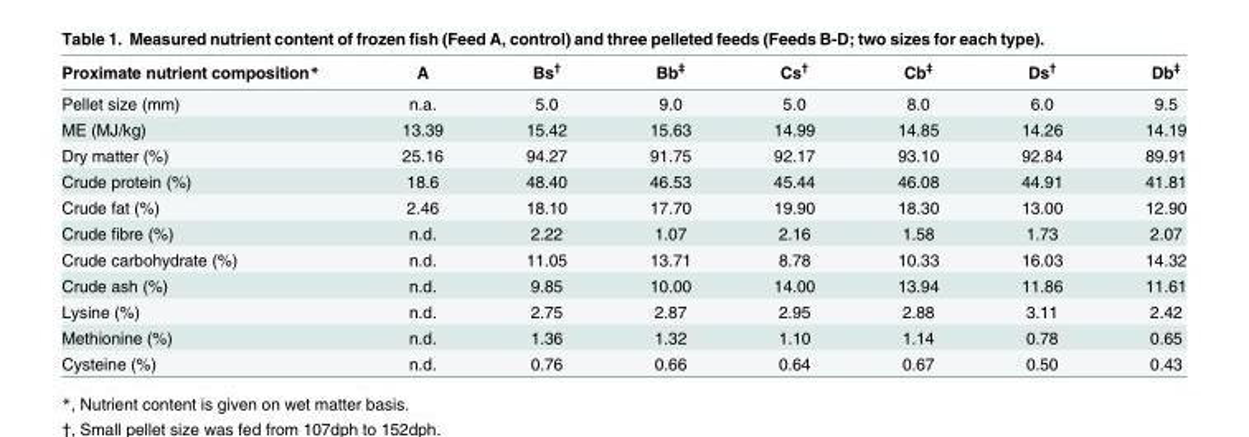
<table><thead><tr><td>Proximate nutrient composition*</td><td>A</td><td>Bs<sup>†</sup></td><td>Bb<sup>‡</sup></td><td>Cs<sup>†</sup></td><td>Cb<sup>‡</sup></td><td>Ds<sup>†</sup></td><td>Db<sup>‡</sup></td></tr></thead><tbody><tr><td>Pellet size (mm)</td><td>n.a.</td><td>5.0</td><td>9.0</td><td>5.0</td><td>8.0</td><td>6.0</td><td>9.5</td></tr><tr><td>ME (MJ/kg)</td><td>13.39</td><td>15.42</td><td>15.63</td><td>14.99</td><td>14.85</td><td>14.26</td><td>14.19</td></tr><tr><td>Dry matter (%)</td><td>25.16</td><td>94.27</td><td>91.75</td><td>92.17</td><td>93.10</td><td>92.84</td><td>89.91</td></tr><tr><td>Crude protein (%)</td><td>18.6</td><td>48.40</td><td>46.53</td><td>45.44</td><td>46.08</td><td>44.91</td><td>41.81</td></tr><tr><td>Crude fat (%)</td><td>2.46</td><td>18.10</td><td>17.70</td><td>19.90</td><td>18.30</td><td>13.00</td><td>12.90</td></tr><tr><td>Crude fibre (%)</td><td>n.d.</td><td>2.22</td><td>1.07</td><td>2.16</td><td>1.58</td><td>1.73</td><td>2.07</td></tr><tr><td>Crude carbohydrate (%)</td><td>n.d.</td><td>11.05</td><td>13.71</td><td>8.78</td><td>10.33</td><td>16.03</td><td>14.32</td></tr><tr><td>Crude ash (%)</td><td>n.d.</td><td>9.85</td><td>10.00</td><td>14.00</td><td>13.94</td><td>11.86</td><td>11.61</td></tr><tr><td>Lysine (%)</td><td>n.d.</td><td>2.75</td><td>2.87</td><td>2.95</td><td>2.88</td><td>3.11</td><td>2.42</td></tr><tr><td>Methionine (%)</td><td>n.d.</td><td>1.36</td><td>1.32</td><td>1.10</td><td>1.14</td><td>0.78</td><td>0.65</td></tr><tr><td>Cysteine (%)</td><td>n.d.</td><td>0.76</td><td>0.66</td><td>0.64</td><td>0.67</td><td>0.50</td><td>0.43</td></tr></tbody></table>